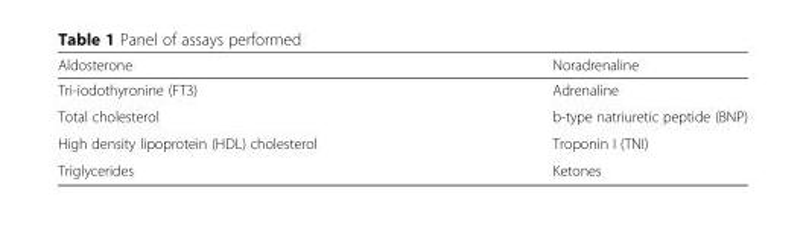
<table><thead><tr><td>Aldosterone</td><td>Noradrenaline</td></tr></thead><tbody><tr><td>Tri-iodothyronine (FT3)</td><td>Adrenaline</td></tr><tr><td>Total cholesterol</td><td>b-type natriuretic peptide (BNP)</td></tr><tr><td>High density lipoprotein (HDL) cholesterol</td><td>Troponin I (TNI)</td></tr><tr><td>Triglycerides</td><td>Ketones</td></tr></tbody></table>